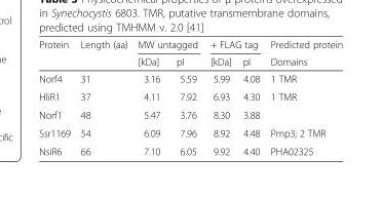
<table><thead><tr><td rowspan="2">Protein</td><td rowspan="2">Length (aa)</td><td colspan="2">MW untagged</td><td colspan="2">+ FLAG tag</td><td rowspan="2">Predicted protein Domains</td></tr><tr><td>[kDa]</td><td>pI</td><td>[kDa]</td><td>pI</td></tr></thead><tbody><tr><td>Norf4</td><td>31</td><td>3.16</td><td>5.59</td><td>5.99</td><td>4.08</td><td>1 TMR</td></tr><tr><td>HliR1</td><td>37</td><td>4.11</td><td>7.92</td><td>6.93</td><td>4.30</td><td>1 TMR</td></tr><tr><td>Norf1</td><td>48</td><td>5.47</td><td>3.76</td><td>8.30</td><td>3.88</td><td></td></tr><tr><td>Ssr1169</td><td>54</td><td>6.09</td><td>7.96</td><td>8.92</td><td>4.48</td><td>Pmp3; 2 TMR</td></tr><tr><td>NsiR6</td><td>66</td><td>7.10</td><td>6.05</td><td>9.92</td><td>4.40</td><td>PHA02325</td></tr></tbody></table>